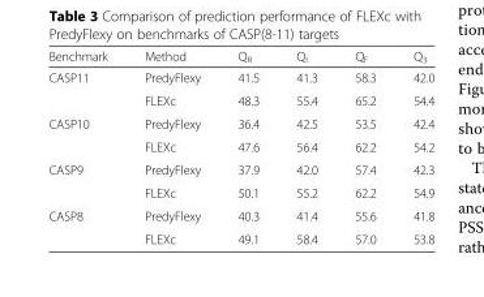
<table><thead><tr><td>Benchmark</td><td>Method</td><td>Q<sub>R</sub></td><td>Q<sub>I</sub></td><td>Q<sub>F</sub></td><td>Q<sub>3</sub></td></tr></thead><tbody><tr><td rowspan="2">CASP11</td><td>PredyFlexy</td><td>41.5</td><td>41.3</td><td>58.3</td><td>42.0</td></tr><tr><td>FLEXc</td><td>48.3</td><td>55.4</td><td>65.2</td><td>54.4</td></tr><tr><td rowspan="2">CASP10</td><td>PredyFlexy</td><td>36.4</td><td>42.5</td><td>53.5</td><td>42.4</td></tr><tr><td>FLEXc</td><td>47.6</td><td>56.4</td><td>62.2</td><td>54.2</td></tr><tr><td rowspan="2">CASP9</td><td>PredyFlexy</td><td>37.9</td><td>42.0</td><td>57.4</td><td>42.3</td></tr><tr><td>FLEXc</td><td>50.1</td><td>55.2</td><td>62.2</td><td>54.9</td></tr><tr><td rowspan="2">CASP8</td><td>PredyFlexy</td><td>40.3</td><td>41.4</td><td>55.6</td><td>41.8</td></tr><tr><td>FLEXc</td><td>49.1</td><td>58.4</td><td>57.0</td><td>53.8</td></tr></tbody></table>